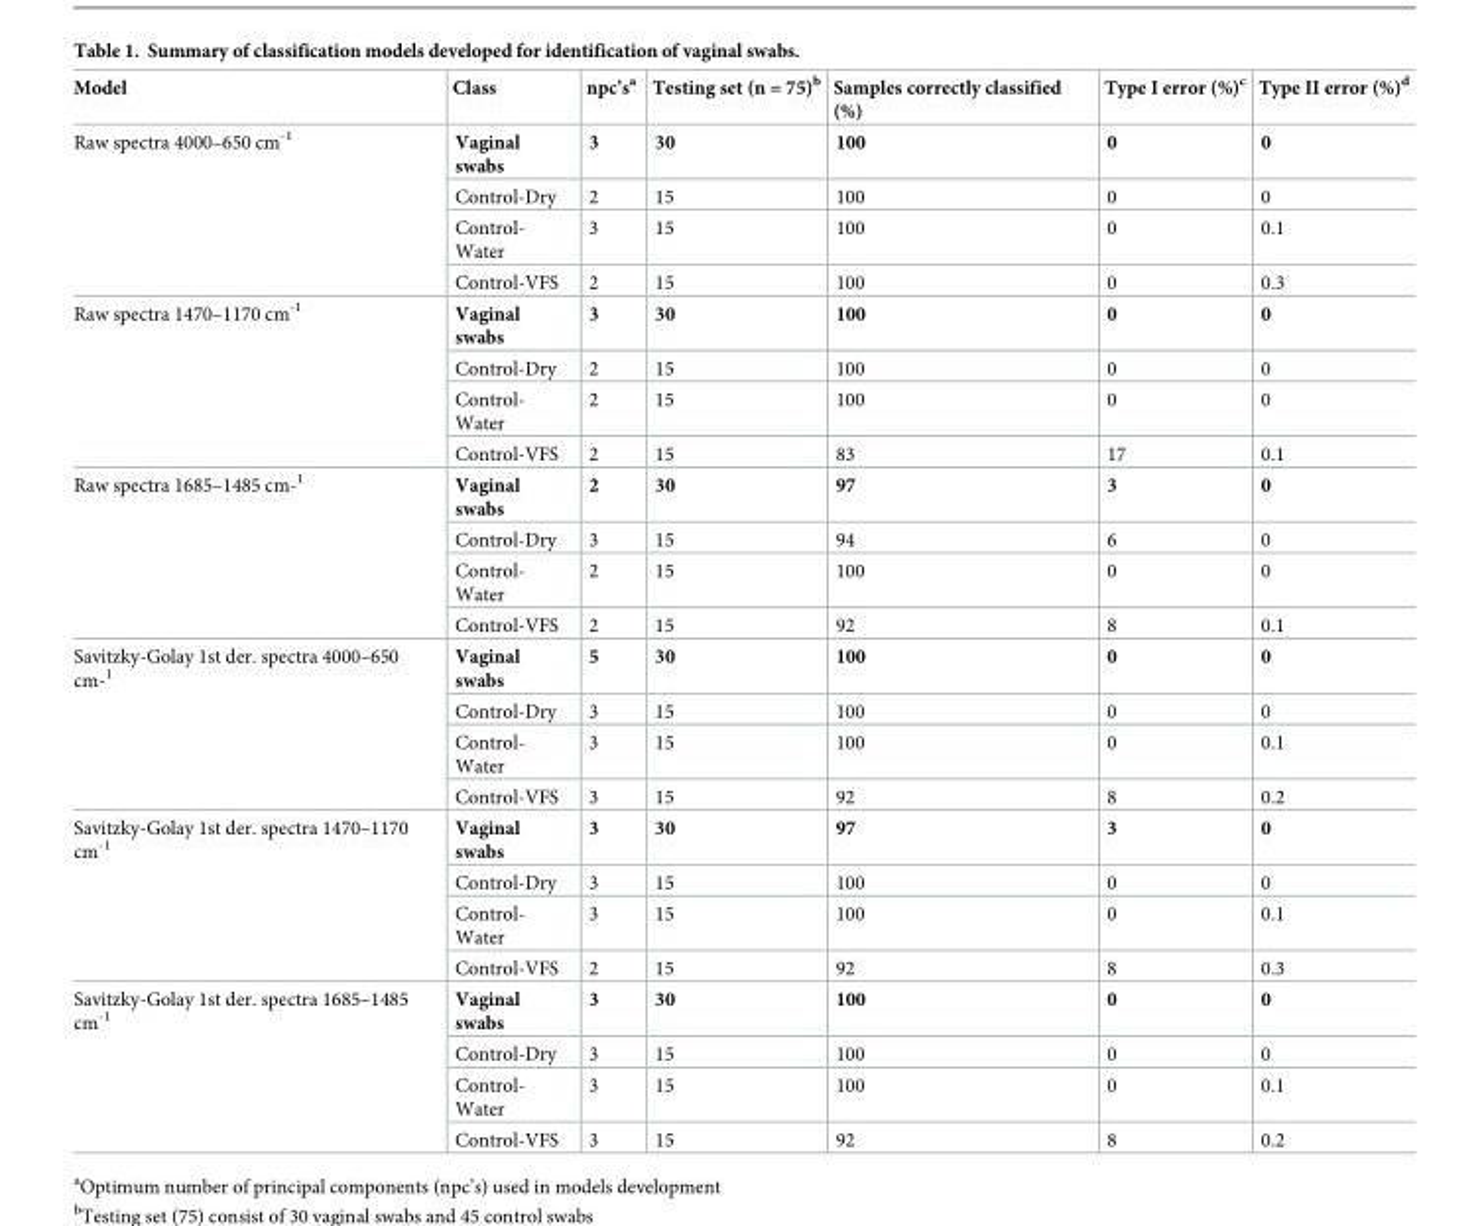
<table><thead><tr><td>Model</td><td>Class</td><td>npc’s<sup>a</sup></td><td>Testing set (n = 75)<sup>b</sup></td><td>Samples correctly classified (%)</td><td>Type I error (%)<sup>c</sup></td><td>Type II error (%)<sup>d</sup></td></tr></thead><tbody><tr><td rowspan="4">Raw spectra 4000–650 cm<sup>-1</sup></td><td>Vaginal swabs</td><td>3</td><td>30</td><td>100</td><td>0</td><td>0</td></tr><tr><td>Control-Dry</td><td>2</td><td>15</td><td>100</td><td>0</td><td>0</td></tr><tr><td>Control- Water</td><td>3</td><td>15</td><td>100</td><td>0</td><td>0.1</td></tr><tr><td>Control-VFS</td><td>2</td><td>15</td><td>100</td><td>0</td><td>0.3</td></tr><tr><td rowspan="4">Raw spectra 1470–1170 cm<sup>-1</sup></td><td>Vaginal swabs</td><td>3</td><td>30</td><td>100</td><td>0</td><td>0</td></tr><tr><td>Control-Dry</td><td>2</td><td>15</td><td>100</td><td>0</td><td>0</td></tr><tr><td>Control- Water</td><td>2</td><td>15</td><td>100</td><td>0</td><td>0</td></tr><tr><td>Control-VFS</td><td>2</td><td>15</td><td>83</td><td>17</td><td>0.1</td></tr><tr><td rowspan="4">Raw spectra 1685–1485 cm-<sup>1</sup></td><td>Vaginal swabs</td><td>2</td><td>30</td><td>97</td><td>3</td><td>0</td></tr><tr><td>Control-Dry</td><td>3</td><td>15</td><td>94</td><td>6</td><td>0</td></tr><tr><td>Control- Water</td><td>2</td><td>15</td><td>100</td><td>0</td><td>0</td></tr><tr><td>Control-VFS</td><td>2</td><td>15</td><td>92</td><td>8</td><td>0.1</td></tr><tr><td rowspan="4">Savitzky-Golay 1st der. spectra 4000–650 cm-<sup>1</sup></td><td>Vaginal swabs</td><td>5</td><td>30</td><td>100</td><td>0</td><td>0</td></tr><tr><td>Control-Dry</td><td>3</td><td>15</td><td>100</td><td>0</td><td>0</td></tr><tr><td>Control- Water</td><td>3</td><td>15</td><td>100</td><td>0</td><td>0.1</td></tr><tr><td>Control-VFS</td><td>3</td><td>15</td><td>92</td><td>8</td><td>0.2</td></tr><tr><td rowspan="4">Savitzky-Golay 1st der. spectra 1470–1170 cm<sup>-1</sup></td><td>Vaginal swabs</td><td>3</td><td>30</td><td>97</td><td>3</td><td>0</td></tr><tr><td>Control-Dry</td><td>3</td><td>15</td><td>100</td><td>0</td><td>0</td></tr><tr><td>Control- Water</td><td>3</td><td>15</td><td>100</td><td>0</td><td>0.1</td></tr><tr><td>Control-VFS</td><td>2</td><td>15</td><td>92</td><td>8</td><td>0.3</td></tr><tr><td rowspan="4">Savitzky-Golay 1st der. spectra 1685–1485 cm<sup>-1</sup></td><td>Vaginal swabs</td><td>3</td><td>30</td><td>100</td><td>0</td><td>0</td></tr><tr><td>Control-Dry</td><td>3</td><td>15</td><td>100</td><td>0</td><td>0</td></tr><tr><td>Control- Water</td><td>3</td><td>15</td><td>100</td><td>0</td><td>0.1</td></tr><tr><td>Control-VFS</td><td>3</td><td>15</td><td>92</td><td>8</td><td>0.2</td></tr></tbody></table>